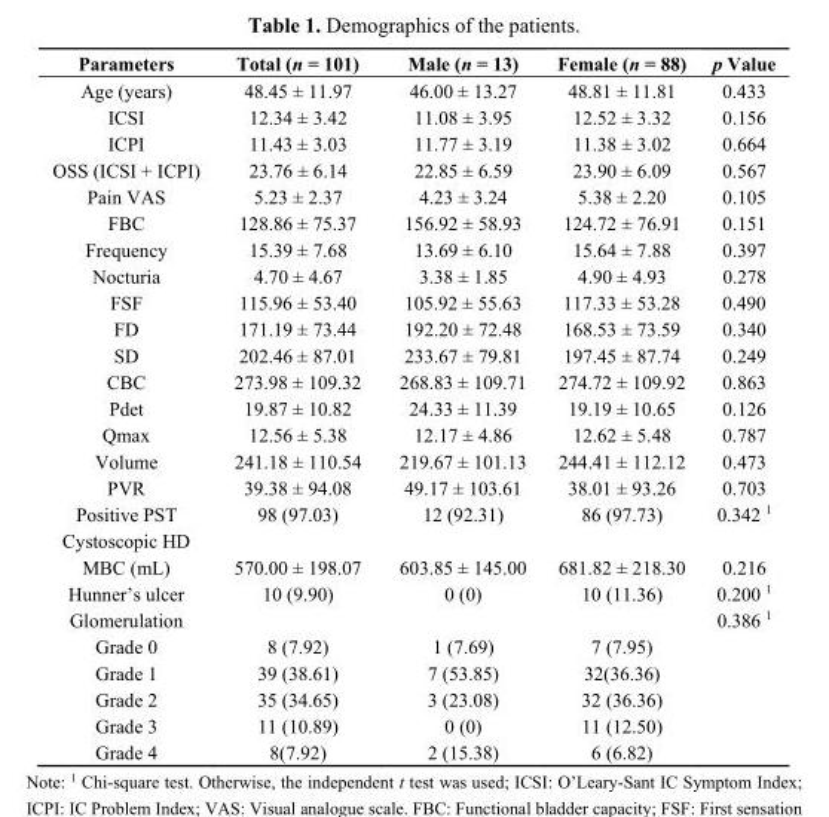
<table><thead><tr><td>Parameters</td><td>Total (n = 101)</td><td>Male (n = 13)</td><td>Female (n = 88)</td><td>p Value</td></tr></thead><tbody><tr><td>Age (years)</td><td>48.45 ± 11.97</td><td>46.00 ± 13.27</td><td>48.81 ± 11.81</td><td>0.433</td></tr><tr><td>ICSI</td><td>12.34 ± 3.42</td><td>11.08 ± 3.95</td><td>12.52 ± 3.32</td><td>0.156</td></tr><tr><td>ICPI</td><td>11.43 ± 3.03</td><td>11.77 ± 3.19</td><td>11.38 ± 3.02</td><td>0.664</td></tr><tr><td>OSS (ICSI + ICPI)</td><td>23.76 ± 6.14</td><td>22.85 ± 6.59</td><td>23.90 ± 6.09</td><td>0.567</td></tr><tr><td>Pain VAS</td><td>5.23 ± 2.37</td><td>4.23 ± 3.24</td><td>5.38 ± 2.20</td><td>0.105</td></tr><tr><td>FBC</td><td>128.86 ± 75.37</td><td>156.92 ± 58.93</td><td>124.72 ± 76.91</td><td>0.151</td></tr><tr><td>Frequency</td><td>15.39 ± 7.68</td><td>13.69 ± 6.10</td><td>15.64 ± 7.88</td><td>0.397</td></tr><tr><td>Nocturia</td><td>4.70 ± 4.67</td><td>3.38 ± 1.85</td><td>4.90 ± 4.93</td><td>0.278</td></tr><tr><td>FSF</td><td>115.96 ± 53.40</td><td>105.92 ± 55.63</td><td>117.33 ± 53.28</td><td>0.490</td></tr><tr><td>FD</td><td>171.19 ± 73.44</td><td>192.20 ± 72.48</td><td>168.53 ± 73.59</td><td>0.340</td></tr><tr><td>SD</td><td>202.46 ± 87.01</td><td>233.67 ± 79.81</td><td>197.45 ± 87.74</td><td>0.249</td></tr><tr><td>CBC</td><td>273.98 ± 109.32</td><td>268.83 ± 109.71</td><td>274.72 ± 109.92</td><td>0.863</td></tr><tr><td>Pdet</td><td>19.87 ± 10.82</td><td>24.33 ± 11.39</td><td>19.19 ± 10.65</td><td>0.126</td></tr><tr><td>Qmax</td><td>12.56 ± 5.38</td><td>12.17 ± 4.86</td><td>12.62 ± 5.48</td><td>0.787</td></tr><tr><td>Volume</td><td>241.18 ± 110.54</td><td>219.67 ± 101.13</td><td>244.41 ± 112.12</td><td>0.473</td></tr><tr><td>PVR</td><td>39.38 ± 94.08</td><td>49.17 ± 103.61</td><td>38.01 ± 93.26</td><td>0.703</td></tr><tr><td>Positive PST</td><td>98 (97.03)</td><td>12 (92.31)</td><td>86 (97.73)</td><td>0.342 <sup>1</sup></td></tr><tr><td colspan="5">Cystoscopic HD</td></tr><tr><td>MBC (mL)</td><td>570.00 ± 198.07</td><td>603.85 ± 145.00</td><td>681.82 ± 218.30</td><td>0.216</td></tr><tr><td>Hunner’s ulcer</td><td>10 (9.90)</td><td>0 (0)</td><td>10 (11.36)</td><td>0.200 <sup>1</sup></td></tr><tr><td>Glomerulation</td><td></td><td></td><td></td><td>0.386 <sup>1</sup></td></tr><tr><td>Grade 0</td><td>8 (7.92)</td><td>1 (7.69)</td><td>7 (7.95)</td><td></td></tr><tr><td>Grade 1</td><td>39 (38.61)</td><td>7 (53.85)</td><td>32(36.36)</td><td></td></tr><tr><td>Grade 2</td><td>35 (34.65)</td><td>3 (23.08)</td><td>32 (36.36)</td><td></td></tr><tr><td>Grade 3</td><td>11 (10.89)</td><td>0 (0)</td><td>11 (12.50)</td><td></td></tr><tr><td>Grade 4</td><td>8(7.92)</td><td>2 (15.38)</td><td>6 (6.82)</td><td></td></tr></tbody></table>